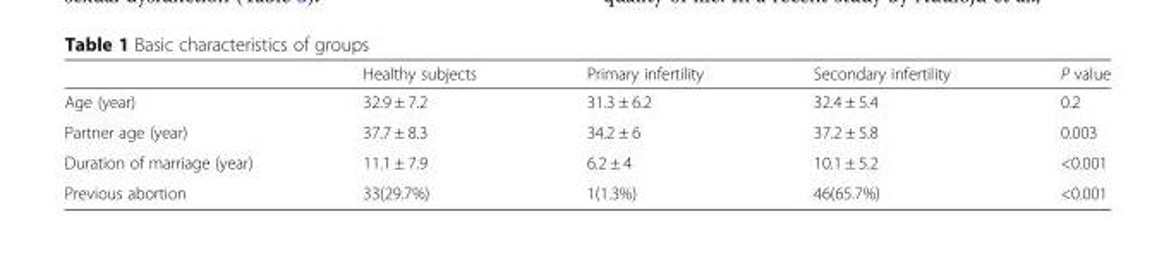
<table><thead><tr><td></td><td>Healthy subjects</td><td>Primary infertility</td><td>Secondary infertility</td><td>P value</td></tr></thead><tbody><tr><td>Age (year)</td><td>32.9 ± 7.2</td><td>31.3 ± 6.2</td><td>32.4 ± 5.4</td><td>0.2</td></tr><tr><td>Partner age (year)</td><td>37.7 ± 8.3</td><td>34.2 ± 6</td><td>37.2 ± 5.8</td><td>0.003</td></tr><tr><td>Duration of marriage (year)</td><td>11.1 ± 7.9</td><td>6.2 ± 4</td><td>10.1 ± 5.2</td><td>&lt;0.001</td></tr><tr><td>Previous abortion</td><td>33(29.7%)</td><td>1(1.3%)</td><td>46(65.7%)</td><td>&lt;0.001</td></tr></tbody></table>